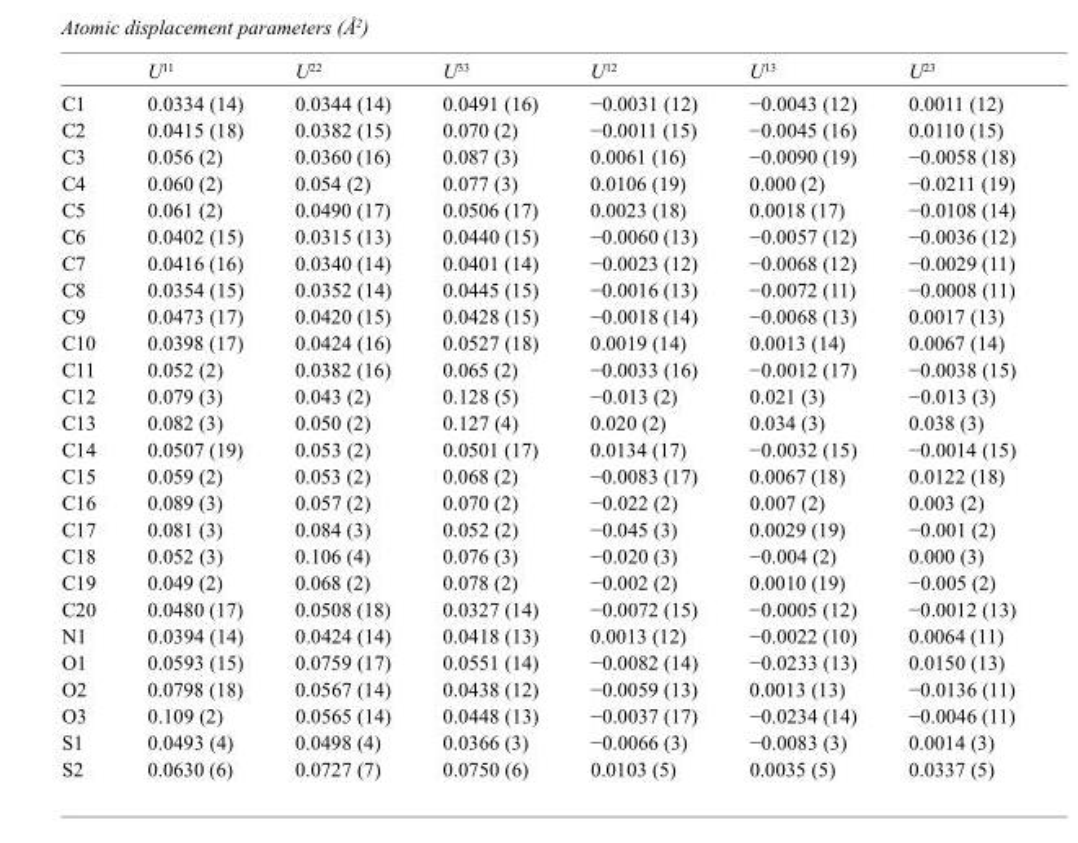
<table><thead><tr><td></td><td>U<sup>11</sup></td><td>U<sup>22</sup></td><td>U<sup>33</sup></td><td>U<sup>12</sup></td><td>U<sup>13</sup></td><td>U<sup>23</sup></td></tr></thead><tbody><tr><td>C1</td><td>0.0334 (14)</td><td>0.0344 (14)</td><td>0.0491 (16)</td><td>−0.0031 (12)</td><td>−0.0043 (12)</td><td>0.0011 (12)</td></tr><tr><td>C2</td><td>0.0415 (18)</td><td>0.0382 (15)</td><td>0.070 (2)</td><td>−0.0011 (15)</td><td>−0.0045 (16)</td><td>0.0110 (15)</td></tr><tr><td>C3</td><td>0.056 (2)</td><td>0.0360 (16)</td><td>0.087 (3)</td><td>0.0061 (16)</td><td>−0.0090 (19)</td><td>−0.0058 (18)</td></tr><tr><td>C4</td><td>0.060 (2)</td><td>0.054 (2)</td><td>0.077 (3)</td><td>0.0106 (19)</td><td>0.000 (2)</td><td>−0.0211 (19)</td></tr><tr><td>C5</td><td>0.061 (2)</td><td>0.0490 (17)</td><td>0.0506 (17)</td><td>0.0023 (18)</td><td>0.0018 (17)</td><td>−0.0108 (14)</td></tr><tr><td>C6</td><td>0.0402 (15)</td><td>0.0315 (13)</td><td>0.0440 (15)</td><td>−0.0060 (13)</td><td>−0.0057 (12)</td><td>−0.0036 (12)</td></tr><tr><td>C7</td><td>0.0416 (16)</td><td>0.0340 (14)</td><td>0.0401 (14)</td><td>−0.0023 (12)</td><td>−0.0068 (12)</td><td>−0.0029 (11)</td></tr><tr><td>C8</td><td>0.0354 (15)</td><td>0.0352 (14)</td><td>0.0445 (15)</td><td>−0.0016 (13)</td><td>−0.0072 (11)</td><td>−0.0008 (11)</td></tr><tr><td>C9</td><td>0.0473 (17)</td><td>0.0420 (15)</td><td>0.0428 (15)</td><td>−0.0018 (14)</td><td>−0.0068 (13)</td><td>0.0017 (13)</td></tr><tr><td>C10</td><td>0.0398 (17)</td><td>0.0424 (16)</td><td>0.0527 (18)</td><td>0.0019 (14)</td><td>0.0013 (14)</td><td>0.0067 (14)</td></tr><tr><td>C11</td><td>0.052 (2)</td><td>0.0382 (16)</td><td>0.065 (2)</td><td>−0.0033 (16)</td><td>−0.0012 (17)</td><td>−0.0038 (15)</td></tr><tr><td>C12</td><td>0.079 (3)</td><td>0.043 (2)</td><td>0.128 (5)</td><td>−0.013 (2)</td><td>0.021 (3)</td><td>−0.013 (3)</td></tr><tr><td>C13</td><td>0.082 (3)</td><td>0.050 (2)</td><td>0.127 (4)</td><td>0.020 (2)</td><td>0.034 (3)</td><td>0.038 (3)</td></tr><tr><td>C14</td><td>0.0507 (19)</td><td>0.053 (2)</td><td>0.0501 (17)</td><td>0.0134 (17)</td><td>−0.0032 (15)</td><td>−0.0014 (15)</td></tr><tr><td>C15</td><td>0.059 (2)</td><td>0.053 (2)</td><td>0.068 (2)</td><td>−0.0083 (17)</td><td>0.0067 (18)</td><td>0.0122 (18)</td></tr><tr><td>C16</td><td>0.089 (3)</td><td>0.057 (2)</td><td>0.070 (2)</td><td>−0.022 (2)</td><td>0.007 (2)</td><td>0.003 (2)</td></tr><tr><td>C17</td><td>0.081 (3)</td><td>0.084 (3)</td><td>0.052 (2)</td><td>−0.045 (3)</td><td>0.0029 (19)</td><td>−0.001 (2)</td></tr><tr><td>C18</td><td>0.052 (3)</td><td>0.106 (4)</td><td>0.076 (3)</td><td>−0.020 (3)</td><td>−0.004 (2)</td><td>0.000 (3)</td></tr><tr><td>C19</td><td>0.049 (2)</td><td>0.068 (2)</td><td>0.078 (2)</td><td>−0.002 (2)</td><td>0.0010 (19)</td><td>−0.005 (2)</td></tr><tr><td>C20</td><td>0.0480 (17)</td><td>0.0508 (18)</td><td>0.0327 (14)</td><td>−0.0072 (15)</td><td>−0.0005 (12)</td><td>−0.0012 (13)</td></tr><tr><td>N1</td><td>0.0394 (14)</td><td>0.0424 (14)</td><td>0.0418 (13)</td><td>0.0013 (12)</td><td>−0.0022 (10)</td><td>0.0064 (11)</td></tr><tr><td>O1</td><td>0.0593 (15)</td><td>0.0759 (17)</td><td>0.0551 (14)</td><td>−0.0082 (14)</td><td>−0.0233 (13)</td><td>0.0150 (13)</td></tr><tr><td>O2</td><td>0.0798 (18)</td><td>0.0567 (14)</td><td>0.0438 (12)</td><td>−0.0059 (13)</td><td>0.0013 (13)</td><td>−0.0136 (11)</td></tr><tr><td>O3</td><td>0.109 (2)</td><td>0.0565 (14)</td><td>0.0448 (13)</td><td>−0.0037 (17)</td><td>−0.0234 (14)</td><td>−0.0046 (11)</td></tr><tr><td>S1</td><td>0.0493 (4)</td><td>0.0498 (4)</td><td>0.0366 (3)</td><td>−0.0066 (3)</td><td>−0.0083 (3)</td><td>0.0014 (3)</td></tr><tr><td>S2</td><td>0.0630 (6)</td><td>0.0727 (7)</td><td>0.0750 (6)</td><td>0.0103 (5)</td><td>0.0035 (5)</td><td>0.0337 (5)</td></tr></tbody></table>